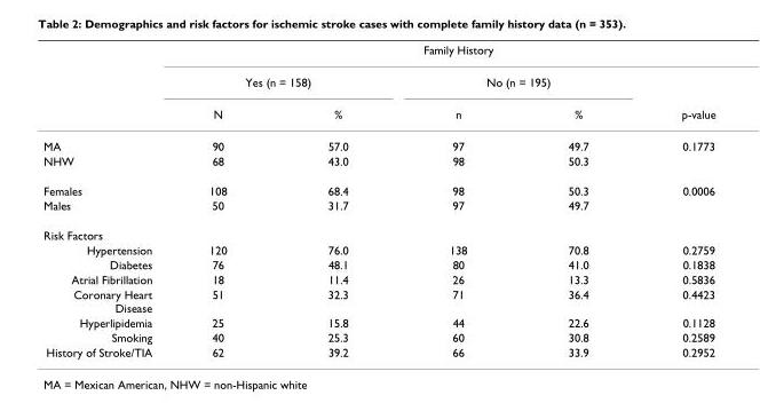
<table><thead><tr><td rowspan="3"></td><td colspan="5">Family History</td></tr><tr><td colspan="2">Yes (n = 158)</td><td colspan="2">No (n = 195)</td><td rowspan="2">p-value</td></tr><tr><td>N</td><td>%</td><td>n</td><td>%</td></tr></thead><tbody><tr><td>MA</td><td>90</td><td>57.0</td><td>97</td><td>49.7</td><td>0.1773</td></tr><tr><td>NHW</td><td>68</td><td>43.0</td><td>98</td><td>50.3</td><td></td></tr><tr><td>Females</td><td>108</td><td>68.4</td><td>98</td><td>50.3</td><td>0.0006</td></tr><tr><td>Males</td><td>50</td><td>31.7</td><td>97</td><td>49.7</td><td></td></tr><tr><td colspan="6">Risk Factors</td></tr><tr><td>Hypertension</td><td>120</td><td>76.0</td><td>138</td><td>70.8</td><td>0.2759</td></tr><tr><td>Diabetes</td><td>76</td><td>48.1</td><td>80</td><td>41.0</td><td>0.1838</td></tr><tr><td>Atrial Fibrillation</td><td>18</td><td>11.4</td><td>26</td><td>13.3</td><td>0.5836</td></tr><tr><td>Coronary Heart Disease</td><td>51</td><td>32.3</td><td>71</td><td>36.4</td><td>0.4423</td></tr><tr><td>Hyperlipidemia</td><td>25</td><td>15.8</td><td>44</td><td>22.6</td><td>0.1128</td></tr><tr><td>Smoking</td><td>40</td><td>25.3</td><td>60</td><td>30.8</td><td>0.2589</td></tr><tr><td>History of Stroke/TIA</td><td>62</td><td>39.2</td><td>66</td><td>33.9</td><td>0.2952</td></tr></tbody></table>